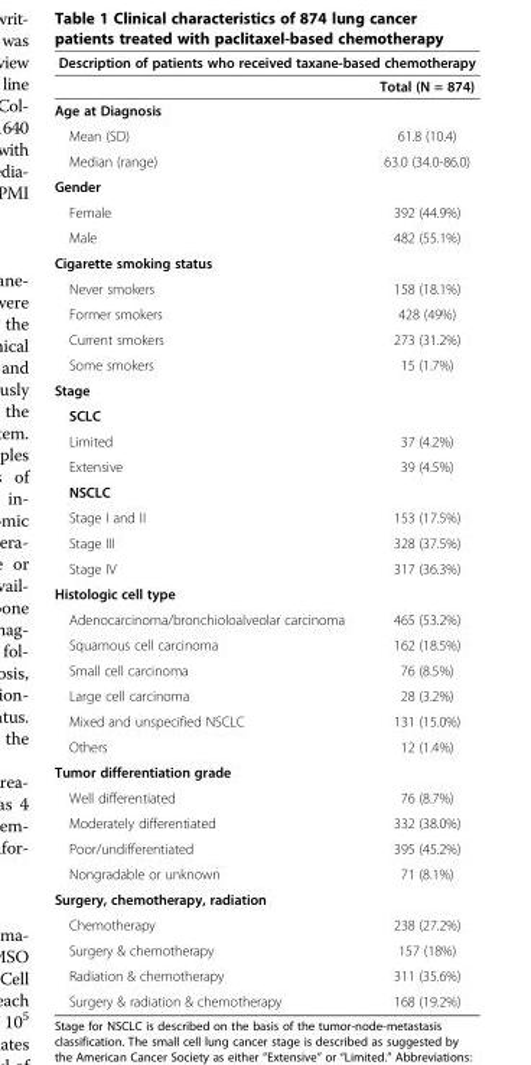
<table><thead><tr><td colspan="2">Description of patients who received taxane-based chemotherapy</td></tr><tr><td></td><td>Total (N = 874)</td></tr></thead><tbody><tr><td colspan="2">Age at Diagnosis</td></tr><tr><td>Mean (SD)</td><td>61.8 (10.4)</td></tr><tr><td>Median (range)</td><td>63.0 (34.0-86.0)</td></tr><tr><td colspan="2">Gender</td></tr><tr><td>Female</td><td>392 (44.9%)</td></tr><tr><td>Male</td><td>482 (55.1%)</td></tr><tr><td colspan="2">Cigarette smoking status</td></tr><tr><td>Never smokers</td><td>158 (18.1%)</td></tr><tr><td>Former smokers</td><td>428 (49%)</td></tr><tr><td>Current smokers</td><td>273 (31.2%)</td></tr><tr><td>Some smokers</td><td>15 (1.7%)</td></tr><tr><td colspan="2">Stage</td></tr><tr><td colspan="2">SCLC</td></tr><tr><td>Limited</td><td>37 (4.2%)</td></tr><tr><td>Extensive</td><td>39 (4.5%)</td></tr><tr><td colspan="2">NSCLC</td></tr><tr><td>Stage I and II</td><td>153 (17.5%)</td></tr><tr><td>Stage III</td><td>328 (37.5%)</td></tr><tr><td>Stage IV</td><td>317 (36.3%)</td></tr><tr><td colspan="2">Histologic cell type</td></tr><tr><td>Adenocarcinoma/bronchioloalveolar carcinoma</td><td>465 (53.2%)</td></tr><tr><td>Squamous cell carcinoma</td><td>162 (18.5%)</td></tr><tr><td>Small cell carcinoma</td><td>76 (8.5%)</td></tr><tr><td>Large cell carcinoma</td><td>28 (3.2%)</td></tr><tr><td>Mixed and unspecified NSCLC</td><td>131 (15.0%)</td></tr><tr><td>Others</td><td>12 (1.4%)</td></tr><tr><td colspan="2">Tumor differentiation grade</td></tr><tr><td>Well differentiated</td><td>76 (8.7%)</td></tr><tr><td>Moderately differentiated</td><td>332 (38.0%)</td></tr><tr><td>Poor/undifferentiated</td><td>395 (45.2%)</td></tr><tr><td>Nongradable or unknown</td><td>71 (8.1%)</td></tr><tr><td colspan="2">Surgery, chemotherapy, radiation</td></tr><tr><td>Chemotherapy</td><td>238 (27.2%)</td></tr><tr><td>Surgery &amp; chemotherapy</td><td>157 (18%)</td></tr><tr><td>Radiation &amp; chemotherapy</td><td>311 (35.6%)</td></tr><tr><td>Surgery &amp; radiation &amp; chemotherapy</td><td>168 (19.2%)</td></tr></tbody></table>